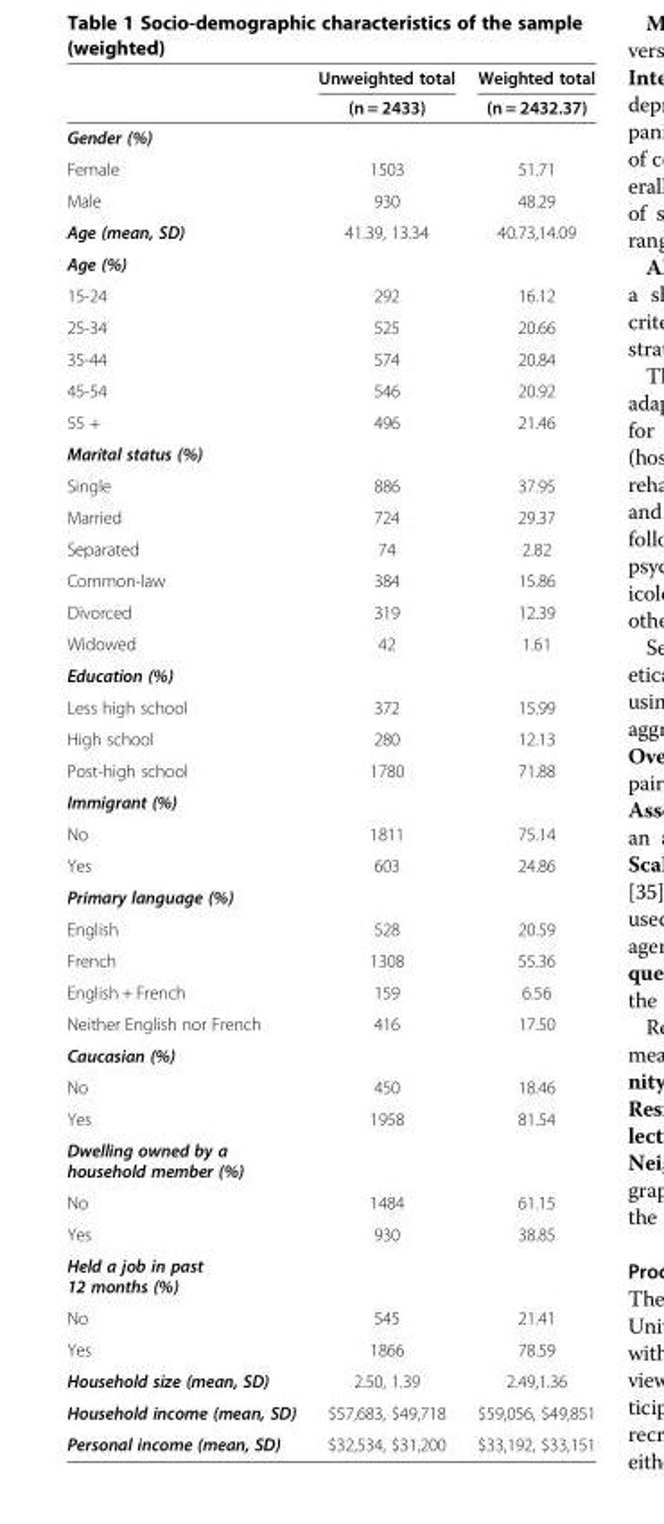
<table><thead><tr><td rowspan="2"></td><td rowspan="2">Unweighted total (n = 2433)</td><td rowspan="2">Weighted total (n = 2432.37)</td></tr><tr></tr></thead><tbody><tr><td colspan="3">Gender (%)</td></tr><tr><td>Female</td><td>1503</td><td>51.71</td></tr><tr><td>Male</td><td>930</td><td>48.29</td></tr><tr><td>Age (mean, SD)</td><td>41.39, 13.34</td><td>40.73,14.09</td></tr><tr><td colspan="3">Age (%)</td></tr><tr><td>15-24</td><td>292</td><td>16.12</td></tr><tr><td>25-34</td><td>525</td><td>20.66</td></tr><tr><td>35-44</td><td>574</td><td>20.84</td></tr><tr><td>45-54</td><td>546</td><td>20.92</td></tr><tr><td>55 +</td><td>496</td><td>21.46</td></tr><tr><td colspan="3">Marital status (%)</td></tr><tr><td>Single</td><td>886</td><td>37.95</td></tr><tr><td>Married</td><td>724</td><td>29.37</td></tr><tr><td>Separated</td><td>74</td><td>2.82</td></tr><tr><td>Common-law</td><td>384</td><td>15.86</td></tr><tr><td>Divorced</td><td>319</td><td>12.39</td></tr><tr><td>Widowed</td><td>42</td><td>1.61</td></tr><tr><td colspan="3">Education (%)</td></tr><tr><td>Less high school</td><td>372</td><td>15.99</td></tr><tr><td>High school</td><td>280</td><td>12.13</td></tr><tr><td>Post-high school</td><td>1780</td><td>71.88</td></tr><tr><td colspan="3">Immigrant (%)</td></tr><tr><td>No</td><td>1811</td><td>75.14</td></tr><tr><td>Yes</td><td>603</td><td>24.86</td></tr><tr><td colspan="3">Primary language (%)</td></tr><tr><td>English</td><td>528</td><td>20.59</td></tr><tr><td>French</td><td>1308</td><td>55.36</td></tr><tr><td>English + French</td><td>159</td><td>6.56</td></tr><tr><td>Neither English nor French</td><td>416</td><td>17.50</td></tr><tr><td colspan="3">Caucasian (%)</td></tr><tr><td>No</td><td>450</td><td>18.46</td></tr><tr><td>Yes</td><td>1958</td><td>81.54</td></tr><tr><td colspan="3">Dwelling owned by a household member (%)</td></tr><tr><td>No</td><td>1484</td><td>61.15</td></tr><tr><td>Yes</td><td>930</td><td>38.85</td></tr><tr><td colspan="3">Held a job in past 12 months (%)</td></tr><tr><td>No</td><td>545</td><td>21.41</td></tr><tr><td>Yes</td><td>1866</td><td>78.59</td></tr><tr><td>Household size (mean, SD)</td><td>2.50, 1.39</td><td>2.49,1.36</td></tr><tr><td>Household income (mean, SD)</td><td>$57,683, $49,718</td><td>$59,056, $49,851</td></tr><tr><td>Personal income (mean, SD)</td><td>$32,534, $31,200</td><td>$33,192, $33,151</td></tr></tbody></table>